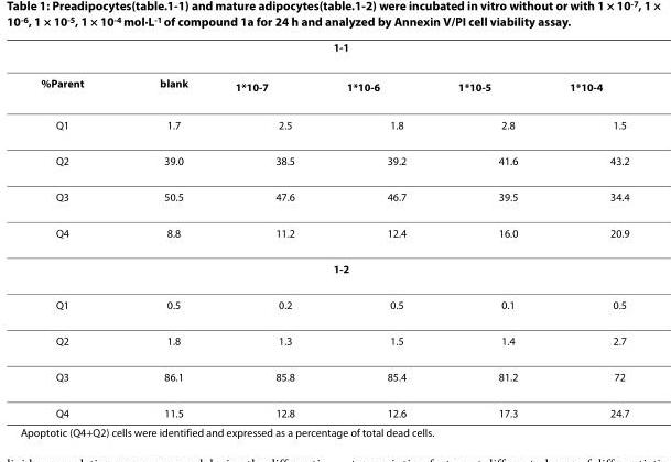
<table><thead><tr><td colspan="6">1-1</td></tr><tr><td>%Parent</td><td>blank</td><td>1*10<sup>-7</sup></td><td>1*10<sup>-6</sup></td><td>1*10<sup>-5</sup></td><td>1*10<sup>-4</sup></td></tr></thead><tbody><tr><td>Q1</td><td>1.7</td><td>2.5</td><td>1.8</td><td>2.8</td><td>1.5</td></tr><tr><td>Q2</td><td>39.0</td><td>38.5</td><td>39.2</td><td>41.6</td><td>43.2</td></tr><tr><td>Q3</td><td>50.5</td><td>47.6</td><td>46.7</td><td>39.5</td><td>34.4</td></tr><tr><td>Q4</td><td>8.8</td><td>11.2</td><td>12.4</td><td>16.0</td><td>20.9</td></tr><tr><td colspan="6">1-2</td></tr><tr><td>Q1</td><td>0.5</td><td>0.2</td><td>0.5</td><td>0.1</td><td>0.5</td></tr><tr><td>Q2</td><td>1.8</td><td>1.3</td><td>1.5</td><td>1.4</td><td>2.7</td></tr><tr><td>Q3</td><td>86.1</td><td>85.8</td><td>85.4</td><td>81.2</td><td>72</td></tr><tr><td>Q4</td><td>11.5</td><td>12.8</td><td>12.6</td><td>17.3</td><td>24.7</td></tr></tbody></table>